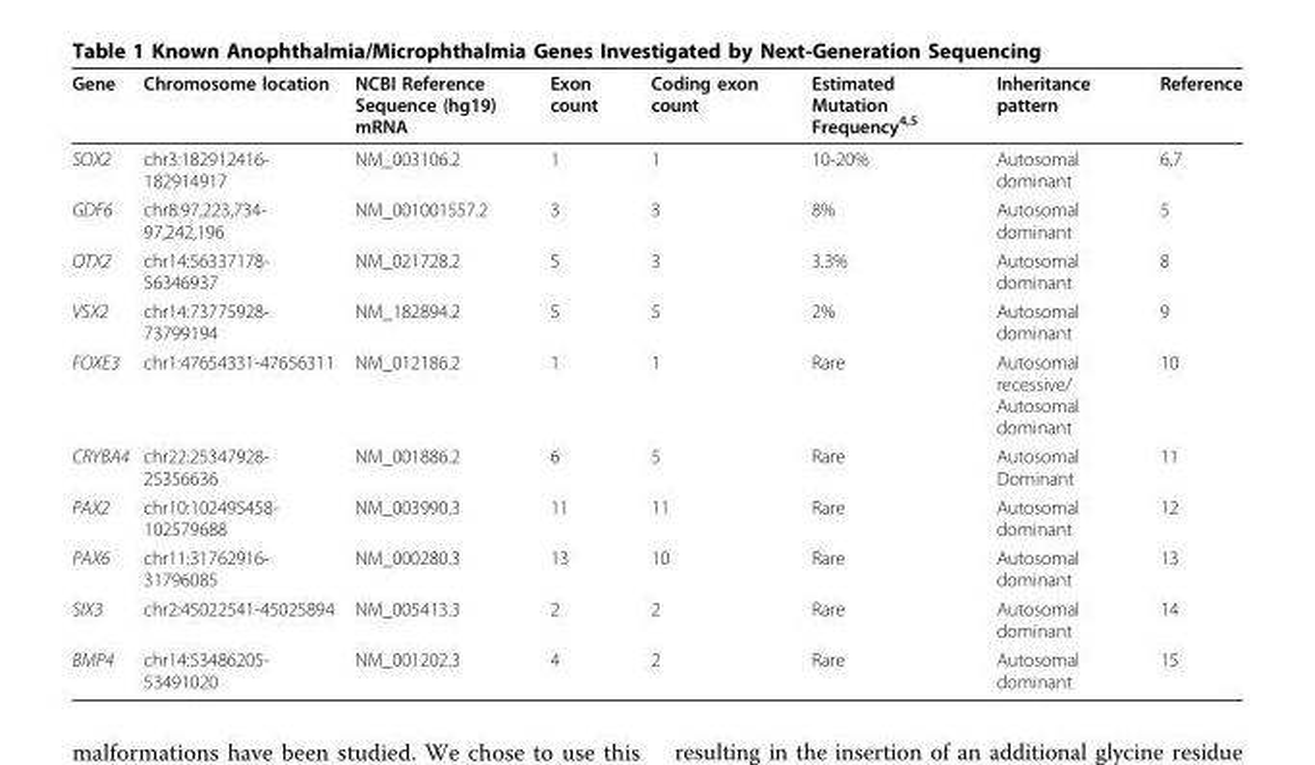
<table><thead><tr><td>Gene</td><td>Chromosome location</td><td>NCBI Reference Sequence (hg19) mRNA</td><td>Exon count</td><td>Coding exon count</td><td>Estimated Mutation Frequency<sup>4,5</sup></td><td>Inheritance pattern</td><td>Reference</td></tr></thead><tbody><tr><td>SOX2</td><td>chr3:182912416- 182914917</td><td>NM_003106.2</td><td>1</td><td>1</td><td>10-20%</td><td>Autosomal dominant</td><td>6,7</td></tr><tr><td>GDF6</td><td>chr8:97,223,734- 97,242,196</td><td>NM_001001557.2</td><td>3</td><td>3</td><td>8%</td><td>Autosomal dominant</td><td>5</td></tr><tr><td>OTX2</td><td>chr14:56337178- 56346937</td><td>NM_021728.2</td><td>5</td><td>3</td><td>3.3%</td><td>Autosomal dominant</td><td>8</td></tr><tr><td>VSX2</td><td>chr14:73775928- 73799194</td><td>NM_182894.2</td><td>5</td><td>5</td><td>2%</td><td>Autosomal dominant</td><td>9</td></tr><tr><td>FOXE3</td><td>chr1:47654331-47656311</td><td>NM_012186.2</td><td>1</td><td>1</td><td>Rare</td><td>Autosomal recessive/ Autosomal dominant</td><td>10</td></tr><tr><td>CRYBA4</td><td>chr22:25347928- 25356636</td><td>NM_001886.2</td><td>6</td><td>5</td><td>Rare</td><td>Autosomal Dominant</td><td>11</td></tr><tr><td>PAX2</td><td>chr10:102495458- 102579688</td><td>NM_003990.3</td><td>11</td><td>11</td><td>Rare</td><td>Autosomal dominant</td><td>12</td></tr><tr><td>PAX6</td><td>chr11:31762916- 31796085</td><td>NM_000280.3</td><td>13</td><td>10</td><td>Rare</td><td>Autosomal dominant</td><td>13</td></tr><tr><td>SIX3</td><td>chr2:45022541-45025894</td><td>NM_005413.3</td><td>2</td><td>2</td><td>Rare</td><td>Autosomal dominant</td><td>14</td></tr><tr><td>BMP4</td><td>chr14:53486205- 53491020</td><td>NM_001202.3</td><td>4</td><td>2</td><td>Rare</td><td>Autosomal dominant</td><td>15</td></tr></tbody></table>